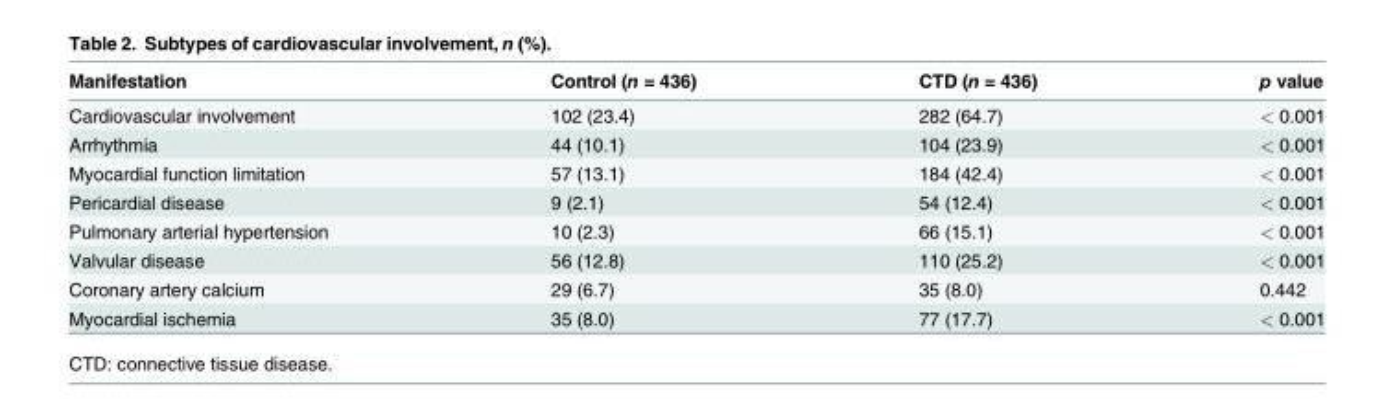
<table><thead><tr><td>Manifestation</td><td>Control (n = 436)</td><td>CTD (n = 436)</td><td>p value</td></tr></thead><tbody><tr><td>Cardiovascular involvement</td><td>102 (23.4)</td><td>282 (64.7)</td><td>&lt; 0.001</td></tr><tr><td>Arrhythmia</td><td>44 (10.1)</td><td>104 (23.9)</td><td>&lt; 0.001</td></tr><tr><td>Myocardial function limitation</td><td>57 (13.1)</td><td>184 (42.4)</td><td>&lt; 0.001</td></tr><tr><td>Pericardial disease</td><td>9 (2.1)</td><td>54 (12.4)</td><td>&lt; 0.001</td></tr><tr><td>Pulmonary arterial hypertension</td><td>10 (2.3)</td><td>66 (15.1)</td><td>&lt; 0.001</td></tr><tr><td>Valvular disease</td><td>56 (12.8)</td><td>110 (25.2)</td><td>&lt; 0.001</td></tr><tr><td>Coronary artery calcium</td><td>29 (6.7)</td><td>35 (8.0)</td><td>0.442</td></tr><tr><td>Myocardial ischemia</td><td>35 (8.0)</td><td>77 (17.7)</td><td>&lt; 0.001</td></tr></tbody></table>